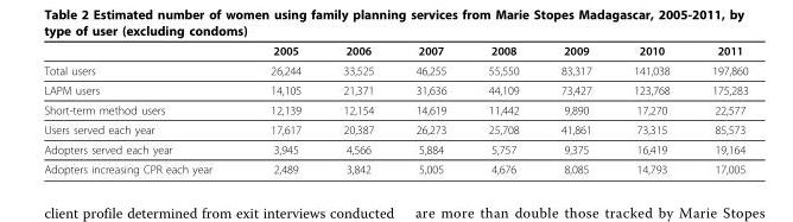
<table><thead><tr><td></td><td>2005</td><td>2006</td><td>2007</td><td>2008</td><td>2009</td><td>2010</td><td>2011</td></tr></thead><tbody><tr><td>Total users</td><td>26,244</td><td>33,525</td><td>46,255</td><td>55,550</td><td>83,317</td><td>141,038</td><td>197,860</td></tr><tr><td>LAPM users</td><td>14,105</td><td>21,371</td><td>31,636</td><td>44,109</td><td>73,427</td><td>123,768</td><td>175,283</td></tr><tr><td>Short-term method users</td><td>12,139</td><td>12,154</td><td>14,619</td><td>11,442</td><td>9,890</td><td>17,270</td><td>22,577</td></tr><tr><td>Users served each year</td><td>17,617</td><td>20,387</td><td>26,273</td><td>25,708</td><td>41,861</td><td>73,315</td><td>85,573</td></tr><tr><td>Adopters served each year</td><td>3,945</td><td>4,566</td><td>5,884</td><td>5,757</td><td>9,375</td><td>16,419</td><td>19,164</td></tr><tr><td>Adopters increasing CPR each year</td><td>2,489</td><td>3,842</td><td>5,005</td><td>4,676</td><td>8,085</td><td>14,793</td><td>17,005</td></tr></tbody></table>